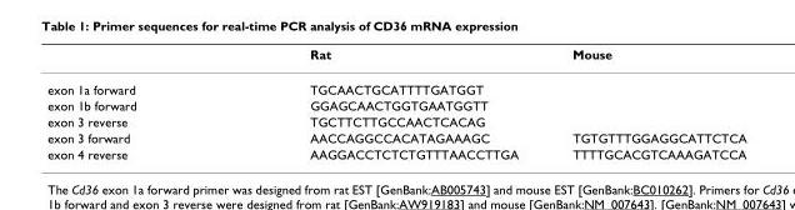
<table><thead><tr><td></td><td>Rat</td><td>Mouse</td></tr></thead><tbody><tr><td>exon 1a forward</td><td>TGCAACTGCATTTTGATGGT</td><td></td></tr><tr><td>exon 1b forward</td><td>GGAGCAACTGGTGAATGGTT</td><td></td></tr><tr><td>exon 3 reverse</td><td>TGCTTCTTGCCAACTCACAG</td><td></td></tr><tr><td>exon 3 forward</td><td>AACCAGGCCACATAGAAAGC</td><td>TGTGTTTGGAGGCATTCTCA</td></tr><tr><td>exon 4 reverse</td><td>AAGGACCTCTCTGTTTAACCTTGA</td><td>TTTTGCACGTCAAAGATCCA</td></tr></tbody></table>